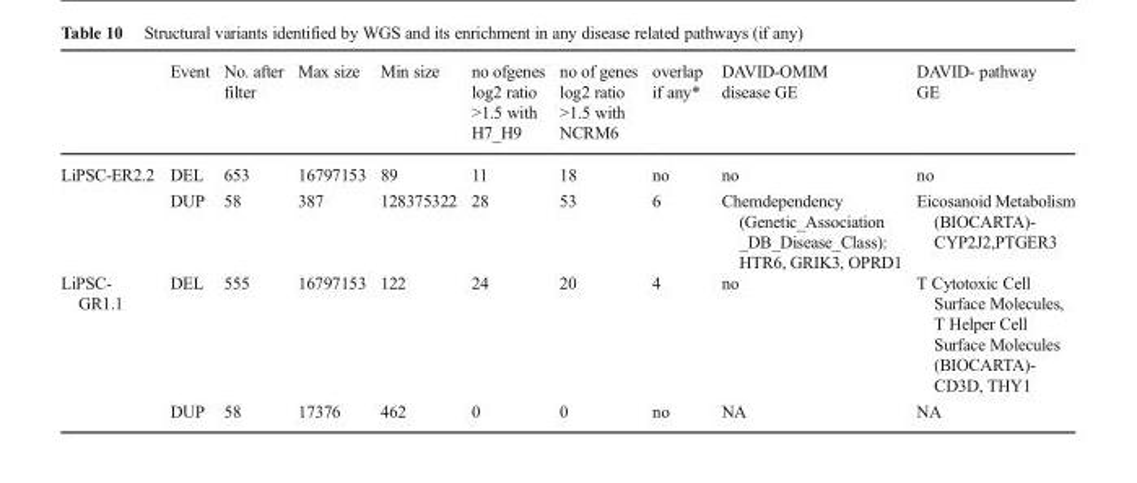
<table><thead><tr><td></td><td>Event</td><td>No. after filter</td><td>Max size</td><td>Min size</td><td>no ofgenes log2 ratio &gt;1.5 with H7_H9</td><td>no of genes log2 ratio &gt;1.5 with NCRM6</td><td>overlap if any*</td><td>DAVID-OMIM disease GE</td><td>DAVID- pathway GE</td></tr></thead><tbody><tr><td rowspan="2">LiPSC-ER2.2</td><td>DEL</td><td>653</td><td>16797153</td><td>89</td><td>11</td><td>18</td><td>no</td><td>no</td><td>no</td></tr><tr><td>DUP</td><td>58</td><td>387</td><td>128375322</td><td>28</td><td>53</td><td>6</td><td>Chemdependency (Genetic_Association _DB_Disease_Class): HTR6, GRIK3, OPRD1</td><td>Eicosanoid Metabolism (BIOCARTA)- CYP2J2,PTGER3</td></tr><tr><td rowspan="2">LiPSC- GR1.1</td><td>DEL</td><td>555</td><td>16797153</td><td>122</td><td>24</td><td>20</td><td>4</td><td>no</td><td>T Cytotoxic Cell Surface Molecules, T Helper Cell Surface Molecules (BIOCARTA)- CD3D, THY1</td></tr><tr><td>DUP</td><td>58</td><td>17376</td><td>462</td><td>0</td><td>0</td><td>no</td><td>NA</td><td>NA</td></tr></tbody></table>